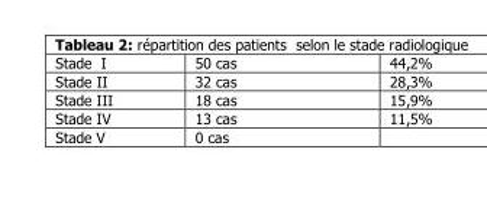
<table><tbody><tr><td>Stade I</td><td>50 cas</td><td>44,2%</td></tr><tr><td>Stade II</td><td>32 cas</td><td>28,3%</td></tr><tr><td>Stade III</td><td>18 cas</td><td>15,9%</td></tr><tr><td>Stade IV</td><td>13 cas</td><td>11,5%</td></tr><tr><td>Stade V</td><td>0 cas</td><td></td></tr></tbody></table>